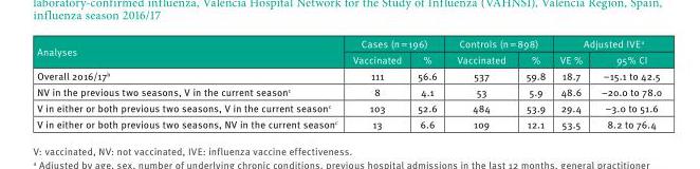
<table><thead><tr><td rowspan="2">Analyses</td><td colspan="2">Cases (n = 196)</td><td colspan="2">Controls (n = 898)</td><td colspan="2">Adjusted IVE<sup>a</sup></td></tr><tr><td>Vaccinated</td><td>%</td><td>Vaccinated</td><td>%</td><td>VE %</td><td>95% CI</td></tr></thead><tbody><tr><td>Overall 2016/17<sup>b</sup></td><td>111</td><td>56.6</td><td>537</td><td>59.8</td><td>18.7</td><td>−15.1 to 42.5</td></tr><tr><td>NV in the previous two seasons, V in the current season<sup>c</sup></td><td>8</td><td>4.1</td><td>53</td><td>5.9</td><td>48.6</td><td>−20.0 to 78.0</td></tr><tr><td>V in either or both previous two seasons, V in the current season<sup>c</sup></td><td>103</td><td>52.6</td><td>484</td><td>53.9</td><td>29.4</td><td>−3.0 to 51.6</td></tr><tr><td>V in either or both previous two seasons, NV in the current season<sup>c</sup></td><td>13</td><td>6.6</td><td>109</td><td>12.1</td><td>53.5</td><td>8.2 to 76.4</td></tr></tbody></table>